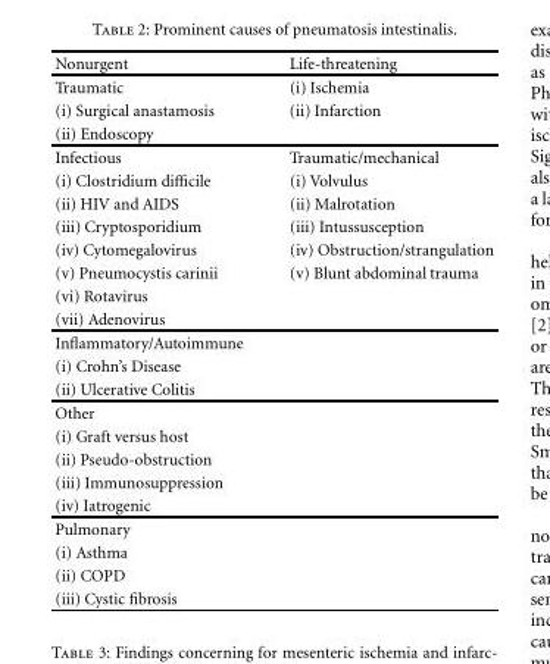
<table><thead><tr><td>Nonurgent</td><td>Life-threatening</td></tr></thead><tbody><tr><td>Traumatic</td><td>(i) Ischemia</td></tr><tr><td>(i) Surgical anastamosis</td><td>(ii) Infarction</td></tr><tr><td colspan="2">(ii) Endoscopy</td></tr><tr><td>Infectious</td><td>Traumatic/mechanical</td></tr><tr><td>(i) Clostridium difficile</td><td>(i) Volvulus</td></tr><tr><td>(ii) HIV and AIDS</td><td>(ii) Malrotation</td></tr><tr><td>(iii) Cryptosporidium</td><td>(iii) Intussusception</td></tr><tr><td>(iv) Cytomegalovirus</td><td>(iv) Obstruction/strangulation</td></tr><tr><td>(v) Pneumocystis carinii</td><td>(v) Blunt abdominal trauma</td></tr><tr><td colspan="2">(vi) Rotavirus</td></tr><tr><td colspan="2">(vii) Adenovirus</td></tr><tr><td colspan="2">Inflammatory/Autoimmune</td></tr><tr><td colspan="2">(i) Crohn’s Disease</td></tr><tr><td colspan="2">(ii) Ulcerative Colitis</td></tr><tr><td colspan="2">Other</td></tr><tr><td colspan="2">(i) Graft versus host</td></tr><tr><td colspan="2">(ii) Pseudo-obstruction</td></tr><tr><td colspan="2">(iii) Immunosuppression</td></tr><tr><td colspan="2">(iv) Iatrogenic</td></tr><tr><td colspan="2">Pulmonary</td></tr><tr><td colspan="2">(i) Asthma</td></tr><tr><td colspan="2">(ii) COPD</td></tr><tr><td>(iii) Cystic fibrosis</td><td></td></tr></tbody></table>